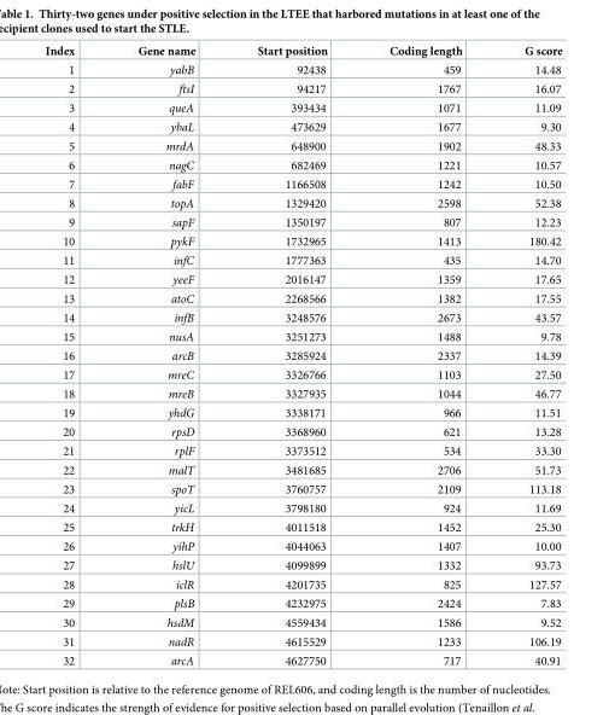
<table><thead><tr><td>Index</td><td>Gene name</td><td>Start position</td><td>Coding length</td><td>G score</td></tr></thead><tbody><tr><td>1</td><td>yabB</td><td>92438</td><td>459</td><td>14.48</td></tr><tr><td>2</td><td>ftsI</td><td>94217</td><td>1767</td><td>16.07</td></tr><tr><td>3</td><td>queA</td><td>393434</td><td>1071</td><td>11.09</td></tr><tr><td>4</td><td>ybaL</td><td>473629</td><td>1677</td><td>9.30</td></tr><tr><td>5</td><td>mrdA</td><td>648900</td><td>1902</td><td>48.33</td></tr><tr><td>6</td><td>nagC</td><td>682469</td><td>1221</td><td>10.57</td></tr><tr><td>7</td><td>fabF</td><td>1166508</td><td>1242</td><td>10.50</td></tr><tr><td>8</td><td>topA</td><td>1329420</td><td>2598</td><td>52.38</td></tr><tr><td>9</td><td>sapF</td><td>1350197</td><td>807</td><td>12.23</td></tr><tr><td>10</td><td>pykF</td><td>1732965</td><td>1413</td><td>180.42</td></tr><tr><td>11</td><td>infC</td><td>1777363</td><td>435</td><td>14.70</td></tr><tr><td>12</td><td>yeeF</td><td>2016147</td><td>1359</td><td>17.65</td></tr><tr><td>13</td><td>atoC</td><td>2268566</td><td>1382</td><td>17.55</td></tr><tr><td>14</td><td>infB</td><td>3248576</td><td>2673</td><td>43.57</td></tr><tr><td>15</td><td>nusA</td><td>3251273</td><td>1488</td><td>9.78</td></tr><tr><td>16</td><td>arcB</td><td>3285924</td><td>2337</td><td>14.39</td></tr><tr><td>17</td><td>mreC</td><td>3326766</td><td>1103</td><td>27.50</td></tr><tr><td>18</td><td>mreB</td><td>3327935</td><td>1044</td><td>46.77</td></tr><tr><td>19</td><td>yhdG</td><td>3338171</td><td>966</td><td>11.51</td></tr><tr><td>20</td><td>rpsD</td><td>3368960</td><td>621</td><td>13.28</td></tr><tr><td>21</td><td>rplF</td><td>3373512</td><td>534</td><td>33.30</td></tr><tr><td>22</td><td>malT</td><td>3481685</td><td>2706</td><td>51.73</td></tr><tr><td>23</td><td>spoT</td><td>3760757</td><td>2109</td><td>113.18</td></tr><tr><td>24</td><td>yicL</td><td>3798180</td><td>924</td><td>11.69</td></tr><tr><td>25</td><td>trkH</td><td>4011518</td><td>1452</td><td>25.30</td></tr><tr><td>26</td><td>yihP</td><td>4044063</td><td>1407</td><td>10.00</td></tr><tr><td>27</td><td>hslU</td><td>4099899</td><td>1332</td><td>93.73</td></tr><tr><td>28</td><td>iclR</td><td>4201735</td><td>825</td><td>127.57</td></tr><tr><td>29</td><td>plsB</td><td>4232975</td><td>2424</td><td>7.83</td></tr><tr><td>30</td><td>hsdM</td><td>4559434</td><td>1586</td><td>9.52</td></tr><tr><td>31</td><td>nadR</td><td>4615529</td><td>1233</td><td>106.19</td></tr><tr><td>32</td><td>arcA</td><td>4627750</td><td>717</td><td>40.91</td></tr></tbody></table>